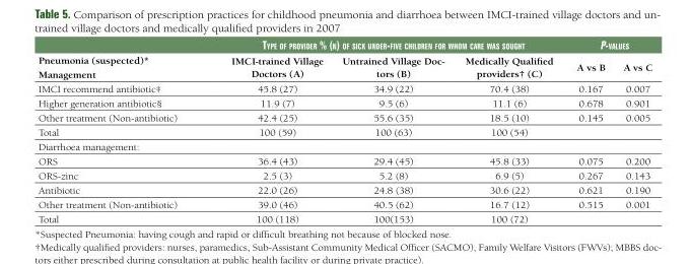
<table><thead><tr><td rowspan="2">Pneumonia (suspected)* Management</td><td colspan="3">typE of providEr % (n) of sicK undEr-fivE childrEn for whom carE was sought</td><td colspan="2">p-valuEs</td></tr><tr><td>IMCI-trained Village Doctors (A)</td><td>Untrained Village Doc- tors (B)</td><td>Medically Qualified providers† (C)</td><td>A vs B</td><td>A vs C</td></tr></thead><tbody><tr><td>IMCI recommend antibiotic‡</td><td>45.8 (27)</td><td>34.9 (22)</td><td>70.4 (38)</td><td>0.167</td><td>0.007</td></tr><tr><td>Higher generation antibiotic§</td><td>11.9 (7)</td><td>9.5 (6)</td><td>11.1 (6)</td><td>0.678</td><td>0.901</td></tr><tr><td>Other treatment (Non-antibiotic)</td><td>42.4 (25)</td><td>55.6 (35)</td><td>18.5 (10)</td><td>0.145</td><td>0.005</td></tr><tr><td>Total</td><td>100 (59)</td><td>100 (63)</td><td>100 (54)</td><td></td><td></td></tr><tr><td colspan="6">Diarrhoea management:</td></tr><tr><td>ORS</td><td>36.4 (43)</td><td>29.4 (45)</td><td>45.8 (33)</td><td>0.075</td><td>0.200</td></tr><tr><td>ORS-zinc</td><td>2.5 (3)</td><td>5.2 (8)</td><td>6.9 (5)</td><td>0.267</td><td>0.143</td></tr><tr><td>Antibiotic</td><td>22.0 (26)</td><td>24.8 (38)</td><td>30.6 (22)</td><td>0.621</td><td>0.190</td></tr><tr><td>Other treatment (Non-antibiotic)</td><td>39.0 (46)</td><td>40.5 (62)</td><td>16.7 (12)</td><td>0.515</td><td>0.001</td></tr><tr><td>Total</td><td>100 (118)</td><td>100(153)</td><td>100 (72)</td><td></td><td></td></tr></tbody></table>